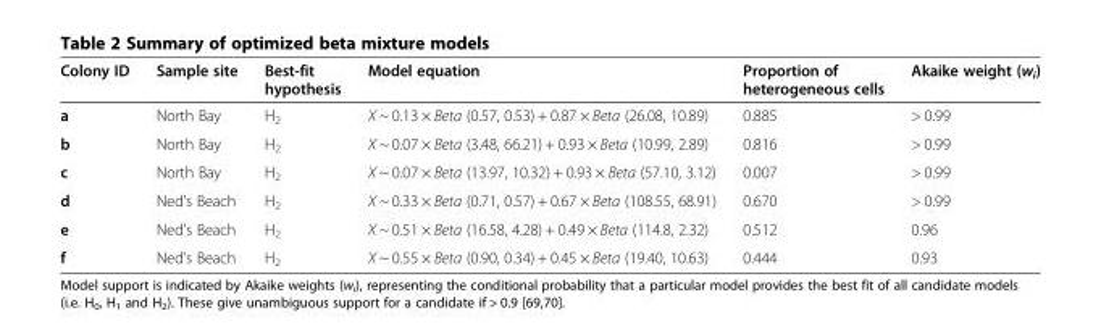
<table><thead><tr><td>Colony ID</td><td>Sample site</td><td>Best-fit hypothesis</td><td>Model equation</td><td>Proportion of heterogeneous cells</td><td>Akaike weight (w<sub>i</sub>)</td></tr></thead><tbody><tr><td>a</td><td>North Bay</td><td>H<sub>2</sub></td><td>X ~ 0.13 × Beta (0.57, 0.53) + 0.87 × Beta (26.08, 10.89)</td><td>0.885</td><td>&gt; 0.99</td></tr><tr><td>b</td><td>North Bay</td><td>H<sub>2</sub></td><td>X ~ 0.07 × Beta (3.48, 66.21) + 0.93 × Beta (10.99, 2.89)</td><td>0.816</td><td>&gt; 0.99</td></tr><tr><td>c</td><td>North Bay</td><td>H<sub>2</sub></td><td>X ~ 0.07 × Beta (13.97, 10.32) + 0.93 × Beta (57.10, 3.12)</td><td>0.007</td><td>&gt; 0.99</td></tr><tr><td>d</td><td>Ned’s Beach</td><td>H<sub>2</sub></td><td>X ~ 0.33 × Beta (0.71, 0.57) + 0.67 × Beta (108.55, 68.91)</td><td>0.670</td><td>&gt; 0.99</td></tr><tr><td>e</td><td>Ned’s Beach</td><td>H<sub>2</sub></td><td>X ~ 0.51 × Beta (16.58, 4.28) + 0.49 × Beta (114.8, 2.32)</td><td>0.512</td><td>0.96</td></tr><tr><td>f</td><td>Ned’s Beach</td><td>H<sub>2</sub></td><td>X ~ 0.55 × Beta (0.90, 0.34) + 0.45 × Beta (19.40, 10.63)</td><td>0.444</td><td>0.93</td></tr></tbody></table>